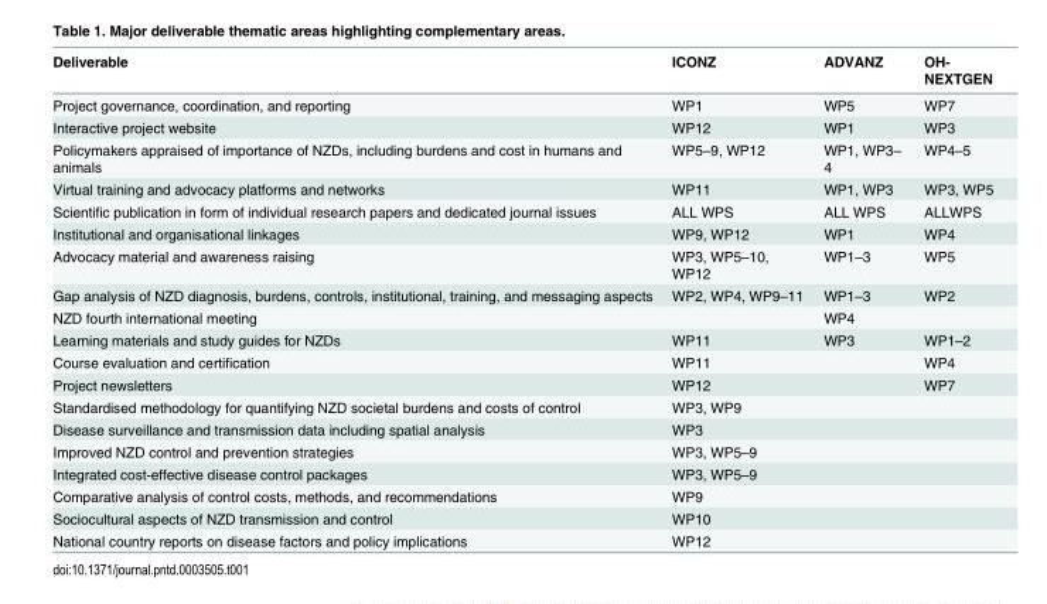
<table><thead><tr><td>Deliverable</td><td>ICONZ</td><td>ADVANZ</td><td>OH- NEXTGEN</td></tr></thead><tbody><tr><td>Project governance, coordination, and reporting</td><td>WP1</td><td>WP5</td><td>WP7</td></tr><tr><td>Interactive project website</td><td>WP12</td><td>WP1</td><td>WP3</td></tr><tr><td>Policymakers appraised of importance of NZDs, including burdens and cost in humans and animals</td><td>WP5–9, WP12</td><td>WP1, WP3– 4</td><td>WP4–5</td></tr><tr><td>Virtual training and advocacy platforms and networks</td><td>WP11</td><td>WP1, WP3</td><td>WP3, WP5</td></tr><tr><td>Scientific publication in form of individual research papers and dedicated journal issues</td><td>ALL WPS</td><td>ALL WPS</td><td>ALLWPS</td></tr><tr><td>Institutional and organisational linkages</td><td>WP9, WP12</td><td>WP1</td><td>WP4</td></tr><tr><td>Advocacy material and awareness raising</td><td>WP3, WP5–10, WP12</td><td>WP1–3</td><td>WP5</td></tr><tr><td>Gap analysis of NZD diagnosis, burdens, controls, institutional, training, and messaging aspects</td><td>WP2, WP4, WP9–11</td><td>WP1–3</td><td>WP2</td></tr><tr><td>NZD fourth international meeting</td><td></td><td>WP4</td><td></td></tr><tr><td>Learning materials and study guides for NZDs</td><td>WP11</td><td>WP3</td><td>WP1–2</td></tr><tr><td>Course evaluation and certification</td><td>WP11</td><td></td><td>WP4</td></tr><tr><td>Project newsletters</td><td>WP12</td><td></td><td>WP7</td></tr><tr><td>Standardised methodology for quantifying NZD societal burdens and costs of control</td><td>WP3, WP9</td><td></td><td></td></tr><tr><td>Disease surveillance and transmission data including spatial analysis</td><td>WP3</td><td></td><td></td></tr><tr><td>Improved NZD control and prevention strategies</td><td>WP3, WP5–9</td><td></td><td></td></tr><tr><td>Integrated cost-effective disease control packages</td><td>WP3, WP5–9</td><td></td><td></td></tr><tr><td>Comparative analysis of control costs, methods, and recommendations</td><td>WP9</td><td></td><td></td></tr><tr><td>Sociocultural aspects of NZD transmission and control</td><td>WP10</td><td></td><td></td></tr><tr><td>National country reports on disease factors and policy implications</td><td>WP12</td><td></td><td></td></tr></tbody></table>